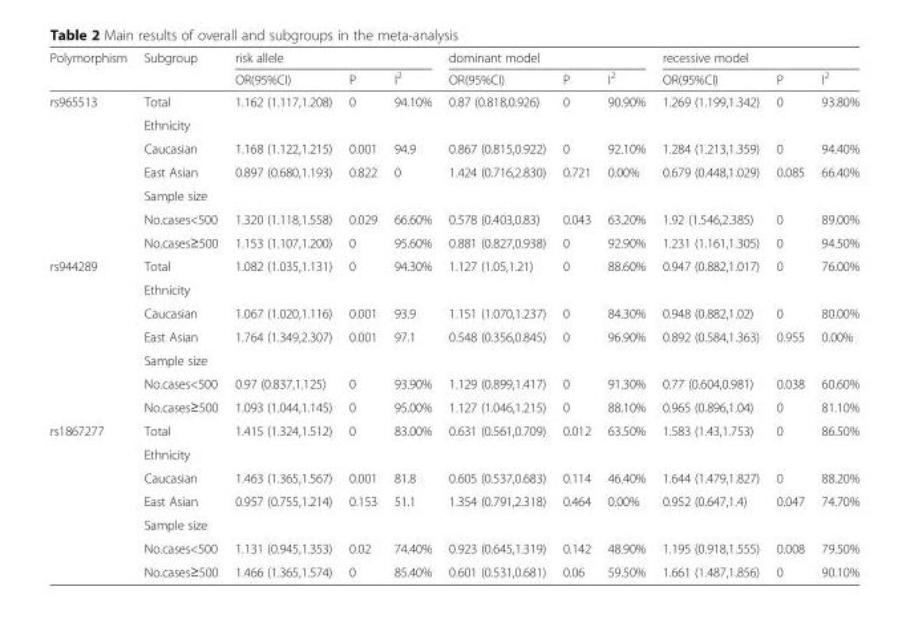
<table><thead><tr><td rowspan="2">Polymorphism</td><td rowspan="2">Subgroup</td><td colspan="3">risk allele</td><td colspan="3">dominant model</td><td colspan="3">recessive model</td></tr><tr><td>OR(95%CI)</td><td>P</td><td>I<sup>2</sup></td><td>OR(95%CI)</td><td>P</td><td>I<sup>2</sup></td><td>OR(95%CI)</td><td>P</td><td>I<sup>2</sup></td></tr></thead><tbody><tr><td rowspan="7">rs965513</td><td>Total</td><td>1.162 (1.117,1.208)</td><td>0</td><td>94.10%</td><td>0.87 (0.818,0.926)</td><td>0</td><td>90.90%</td><td>1.269 (1.199,1.342)</td><td>0</td><td>93.80%</td></tr><tr><td colspan="10">Ethnicity</td></tr><tr><td>Caucasian</td><td>1.168 (1.122,1.215)</td><td>0.001</td><td>94.9</td><td>0.867 (0.815,0.922)</td><td>0</td><td>92.10%</td><td>1.284 (1.213,1.359)</td><td>0</td><td>94.40%</td></tr><tr><td>East Asian</td><td>0.897 (0.680,1.193)</td><td>0.822</td><td>0</td><td>1.424 (0.716,2.830)</td><td>0.721</td><td>0.00%</td><td>0.679 (0.448,1.029)</td><td>0.085</td><td>66.40%</td></tr><tr><td colspan="10">Sample size</td></tr><tr><td>No.cases&lt;500</td><td>1.320 (1.118,1.558)</td><td>0.029</td><td>66.60%</td><td>0.578 (0.403,0.83)</td><td>0.043</td><td>63.20%</td><td>1.92 (1.546,2.385)</td><td>0</td><td>89.00%</td></tr><tr><td>No.cases≥500</td><td>1.153 (1.107,1.200)</td><td>0</td><td>95.60%</td><td>0.881 (0.827,0.938)</td><td>0</td><td>92.90%</td><td>1.231 (1.161,1.305)</td><td>0</td><td>94.50%</td></tr><tr><td rowspan="7">rs944289</td><td>Total</td><td>1.082 (1.035,1.131)</td><td>0</td><td>94.30%</td><td>1.127 (1.05,1.21)</td><td>0</td><td>88.60%</td><td>0.947 (0.882,1.017)</td><td>0</td><td>76.00%</td></tr><tr><td colspan="10">Ethnicity</td></tr><tr><td>Caucasian</td><td>1.067 (1.020,1.116)</td><td>0.001</td><td>93.9</td><td>1.151 (1.070,1.237)</td><td>0</td><td>84.30%</td><td>0.948 (0.882,1.02)</td><td>0</td><td>80.00%</td></tr><tr><td>East Asian</td><td>1.764 (1.349,2.307)</td><td>0.001</td><td>97.1</td><td>0.548 (0.356,0.845)</td><td>0</td><td>96.90%</td><td>0.892 (0.584,1.363)</td><td>0.955</td><td>0.00%</td></tr><tr><td colspan="10">Sample size</td></tr><tr><td>No.cases&lt;500</td><td>0.97 (0.837,1.125)</td><td>0</td><td>93.90%</td><td>1.129 (0.899,1.417)</td><td>0</td><td>91.30%</td><td>0.77 (0.604,0.981)</td><td>0.038</td><td>60.60%</td></tr><tr><td>No.cases≥500</td><td>1.093 (1.044,1.145)</td><td>0</td><td>95.00%</td><td>1.127 (1.046,1.215)</td><td>0</td><td>88.10%</td><td>0.965 (0.896,1.04)</td><td>0</td><td>81.10%</td></tr><tr><td rowspan="7">rs1867277</td><td>Total</td><td>1.415 (1.324,1.512)</td><td>0</td><td>83.00%</td><td>0.631 (0.561,0.709)</td><td>0.012</td><td>63.50%</td><td>1.583 (1.43,1.753)</td><td>0</td><td>86.50%</td></tr><tr><td colspan="10">Ethnicity</td></tr><tr><td>Caucasian</td><td>1.463 (1.365,1.567)</td><td>0.001</td><td>81.8</td><td>0.605 (0.537,0.683)</td><td>0.114</td><td>46.40%</td><td>1.644 (1.479,1.827)</td><td>0</td><td>88.20%</td></tr><tr><td>East Asian</td><td>0.957 (0.755,1.214)</td><td>0.153</td><td>51.1</td><td>1.354 (0.791,2.318)</td><td>0.464</td><td>0.00%</td><td>0.952 (0.647,1.4)</td><td>0.047</td><td>74.70%</td></tr><tr><td colspan="10">Sample size</td></tr><tr><td>No.cases&lt;500</td><td>1.131 (0.945,1.353)</td><td>0.02</td><td>74.40%</td><td>0.923 (0.645,1.319)</td><td>0.142</td><td>48.90%</td><td>1.195 (0.918,1.555)</td><td>0.008</td><td>79.50%</td></tr><tr><td>No.cases≥500</td><td>1.466 (1.365,1.574)</td><td>0</td><td>85.40%</td><td>0.601 (0.531,0.681)</td><td>0.06</td><td>59.50%</td><td>1.661 (1.487,1.856)</td><td>0</td><td>90.10%</td></tr></tbody></table>